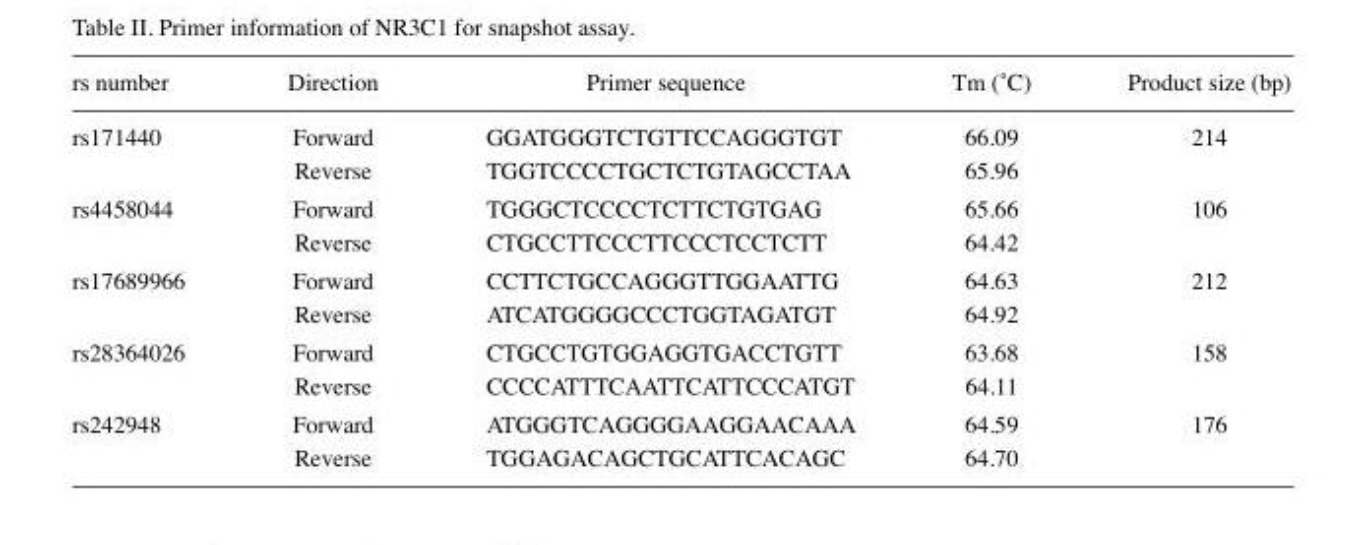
<table><thead><tr><td>rs number</td><td>Direction</td><td>Primer sequence</td><td>Tm (˚C)</td><td>Product size (bp)</td></tr></thead><tbody><tr><td>rs171440</td><td>Forward Reverse</td><td>GGATGGGTCTGTTCCAGGGTGT TGGTCCCCTGCTCTGTAGCCTAA</td><td>66.09 65.96</td><td>214</td></tr><tr><td>rs4458044</td><td>Forward Reverse</td><td>TGGGCTCCCCTCTTCTGTGAG CTGCCTTCCCTTCCCTCCTCTT</td><td>65.66 64.42</td><td>106</td></tr><tr><td>rs17689966</td><td>Forward Reverse</td><td>CCTTCTGCCAGGGTTGGAATTG ATCATGGGGCCCTGGTAGATGT</td><td>64.63 64.92</td><td>212</td></tr><tr><td>rs28364026</td><td>Forward Reverse</td><td>CTGCCTGTGGAGGTGACCTGTT CCCCATTTCAATTCATTCCCATGT</td><td>63.68 64.11</td><td>158</td></tr><tr><td>rs242948</td><td>Forward Reverse</td><td>ATGGGTCAGGGGAAGGAACAAA TGGAGACAGCTGCATTCACAGC</td><td>64.59 64.70</td><td>176</td></tr></tbody></table>